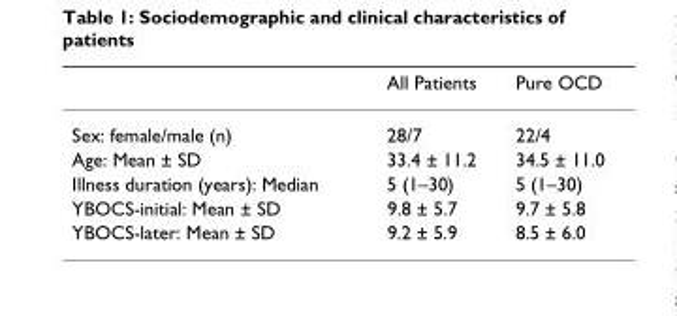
<table><thead><tr><td></td><td>All Patients</td><td>Pure OCD</td></tr></thead><tbody><tr><td>Sex: female/male (n)</td><td>28/7</td><td>22/4</td></tr><tr><td>Age: Mean ± SD</td><td>33.4 ± 11.2</td><td>34.5 ± 11.0</td></tr><tr><td>Illness duration (years): Median</td><td>5 (1–30)</td><td>5 (1–30)</td></tr><tr><td>YBOCS-initial: Mean ± SD</td><td>9.8 ± 5.7</td><td>9.7 ± 5.8</td></tr><tr><td>YBOCS-later: Mean ± SD</td><td>9.2 ± 5.9</td><td>8.5 ± 6.0</td></tr></tbody></table>